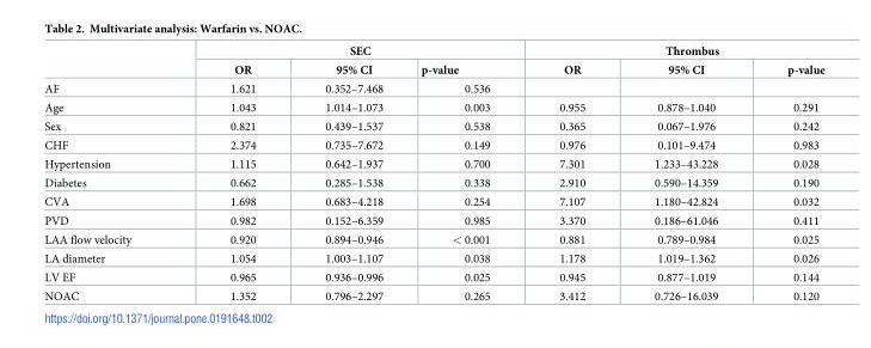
<table><thead><tr><td rowspan="2"></td><td colspan="3">SEC</td><td colspan="3">Thrombus</td></tr><tr><td>OR</td><td>95% CI</td><td>p-value</td><td>OR</td><td>95% CI</td><td>p-value</td></tr></thead><tbody><tr><td>AF</td><td>1.621</td><td>0.352–7.468</td><td>0.536</td><td></td><td></td><td></td></tr><tr><td>Age</td><td>1.043</td><td>1.014–1.073</td><td>0.003</td><td>0.955</td><td>0.878–1.040</td><td>0.291</td></tr><tr><td>Sex</td><td>0.821</td><td>0.439–1.537</td><td>0.538</td><td>0.365</td><td>0.067–1.976</td><td>0.242</td></tr><tr><td>CHF</td><td>2.374</td><td>0.735–7.672</td><td>0.149</td><td>0.976</td><td>0.101–9.474</td><td>0.983</td></tr><tr><td>Hypertension</td><td>1.115</td><td>0.642–1.937</td><td>0.700</td><td>7.301</td><td>1.233–43.228</td><td>0.028</td></tr><tr><td>Diabetes</td><td>0.662</td><td>0.285–1.538</td><td>0.338</td><td>2.910</td><td>0.590–14.359</td><td>0.190</td></tr><tr><td>CVA</td><td>1.698</td><td>0.683–4.218</td><td>0.254</td><td>7.107</td><td>1.180–42.824</td><td>0.032</td></tr><tr><td>PVD</td><td>0.982</td><td>0.152–6.359</td><td>0.985</td><td>3.370</td><td>0.186–61.046</td><td>0.411</td></tr><tr><td>LAA flow velocity</td><td>0.920</td><td>0.894–0.946</td><td>&lt; 0.001</td><td>0.881</td><td>0.789–0.984</td><td>0.025</td></tr><tr><td>LA diameter</td><td>1.054</td><td>1.003–1.107</td><td>0.038</td><td>1.178</td><td>1.019–1.362</td><td>0.026</td></tr><tr><td>LV EF</td><td>0.965</td><td>0.936–0.996</td><td>0.025</td><td>0.945</td><td>0.877–1.019</td><td>0.144</td></tr><tr><td>NOAC</td><td>1.352</td><td>0.796–2.297</td><td>0.265</td><td>3.412</td><td>0.726–16.039</td><td>0.120</td></tr></tbody></table>